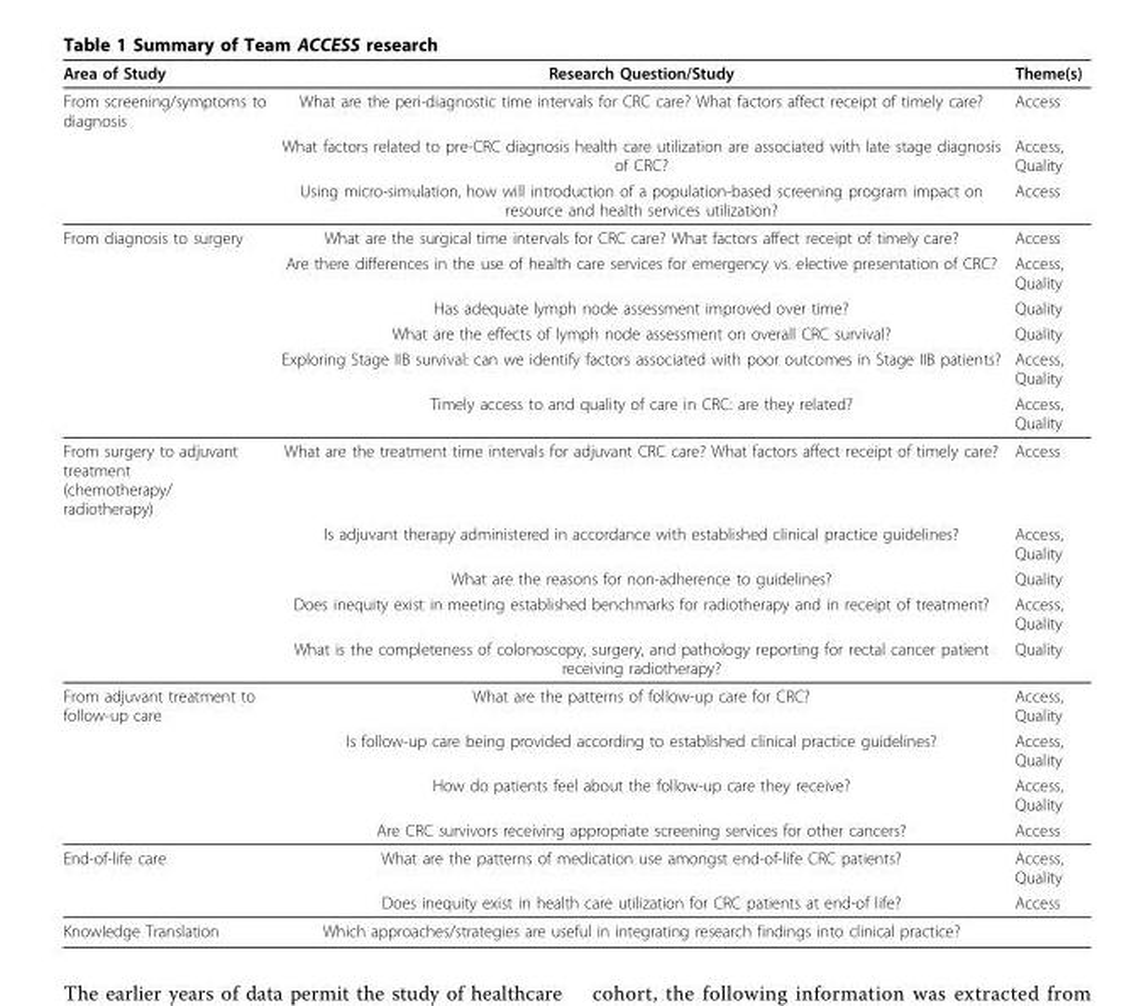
<table><thead><tr><td>Area of Study</td><td>Research Question/Study</td><td>Theme(s)</td></tr></thead><tbody><tr><td rowspan="3">From screening/symptoms to diagnosis</td><td>What are the peri-diagnostic time intervals for CRC care? What factors affect receipt of timely care?</td><td>Access</td></tr><tr><td>What factors related to pre-CRC diagnosis health care utilization are associated with late stage diagnosis of CRC?</td><td>Access, Quality</td></tr><tr><td>Using micro-simulation, how will introduction of a population-based screening program impact on resource and health services utilization?</td><td>Access</td></tr><tr><td rowspan="6">From diagnosis to surgery</td><td>What are the surgical time intervals for CRC care? What factors affect receipt of timely care?</td><td>Access</td></tr><tr><td>Are there differences in the use of health care services for emergency vs. elective presentation of CRC?</td><td>Access, Quality</td></tr><tr><td>Has adequate lymph node assessment improved over time?</td><td>Quality</td></tr><tr><td>What are the effects of lymph node assessment on overall CRC survival?</td><td>Quality</td></tr><tr><td>Exploring Stage IIB survival: can we identify factors associated with poor outcomes in Stage IIB patients?</td><td>Access, Quality</td></tr><tr><td>Timely access to and quality of care in CRC: are they related?</td><td>Access, Quality</td></tr><tr><td rowspan="5">From surgery to adjuvant treatment (chemotherapy/ radiotherapy)</td><td>What are the treatment time intervals for adjuvant CRC care? What factors affect receipt of timely care?</td><td>Access</td></tr><tr><td>Is adjuvant therapy administered in accordance with established clinical practice guidelines?</td><td>Access, Quality</td></tr><tr><td>What are the reasons for non-adherence to guidelines?</td><td>Quality</td></tr><tr><td>Does inequity exist in meeting established benchmarks for radiotherapy and in receipt of treatment?</td><td>Access, Quality</td></tr><tr><td>What is the completeness of colonoscopy, surgery, and pathology reporting for rectal cancer patient receiving radiotherapy?</td><td>Quality</td></tr><tr><td rowspan="4">From adjuvant treatment to follow-up care</td><td>What are the patterns of follow-up care for CRC?</td><td>Access, Quality</td></tr><tr><td>Is follow-up care being provided according to established clinical practice guidelines?</td><td>Access, Quality</td></tr><tr><td>How do patients feel about the follow-up care they receive?</td><td>Access, Quality</td></tr><tr><td>Are CRC survivors receiving appropriate screening services for other cancers?</td><td>Access</td></tr><tr><td rowspan="2">End-of-life care</td><td>What are the patterns of medication use amongst end-of-life CRC patients?</td><td>Access, Quality</td></tr><tr><td>Does inequity exist in health care utilization for CRC patients at end-of life?</td><td>Access</td></tr><tr><td>Knowledge Translation</td><td>Which approaches/strategies are useful in integrating research findings into clinical practice?</td><td></td></tr></tbody></table>